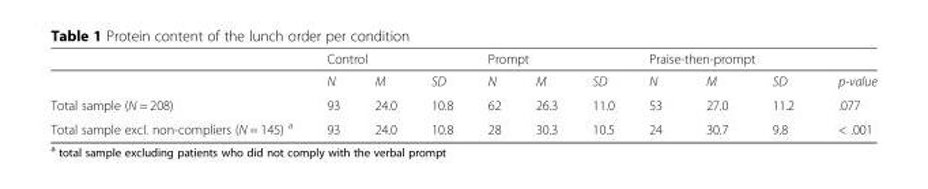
<table><thead><tr><td rowspan="2"></td><td colspan="3">Control</td><td colspan="3">Prompt</td><td colspan="3">Praise-then-prompt</td><td rowspan="2">p-value</td></tr><tr><td>N</td><td>M</td><td>SD</td><td>N</td><td>M</td><td>SD</td><td>N</td><td>M</td><td>SD</td></tr></thead><tbody><tr><td>Total sample (N = 208)</td><td>93</td><td>24.0</td><td>10.8</td><td>62</td><td>26.3</td><td>11.0</td><td>53</td><td>27.0</td><td>11.2</td><td>.077</td></tr><tr><td>Total sample excl. non-compliers (N = 145) <sup>a</sup></td><td>93</td><td>24.0</td><td>10.8</td><td>28</td><td>30.3</td><td>10.5</td><td>24</td><td>30.7</td><td>9.8</td><td>&lt; .001</td></tr></tbody></table>